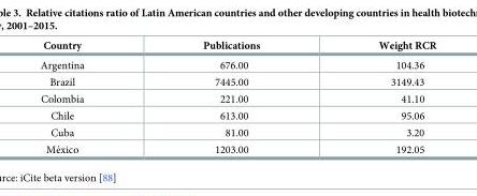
<table><thead><tr><td>Country</td><td>Publications</td><td>Weight RCR</td></tr></thead><tbody><tr><td>Argentina</td><td>676.00</td><td>104.36</td></tr><tr><td>Brazil</td><td>7445.00</td><td>3149.43</td></tr><tr><td>Colombia</td><td>221.00</td><td>41.10</td></tr><tr><td>Chile</td><td>613.00</td><td>95.06</td></tr><tr><td>Cuba</td><td>81.00</td><td>3.20</td></tr><tr><td>Me´xico</td><td>1203.00</td><td>192.05</td></tr></tbody></table>